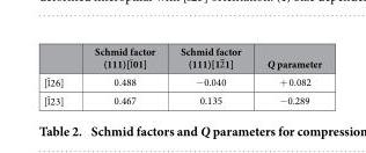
<table><thead><tr><td></td><td>Schmid factor (111)[101]</td><td>Schmid factor (111)[121]</td><td>Q parameter</td></tr></thead><tbody><tr><td>[126]</td><td>0.488</td><td>− 0.040</td><td>+ 0.082</td></tr><tr><td>[123]</td><td>0.467</td><td>0.135</td><td>− 0.289</td></tr></tbody></table>